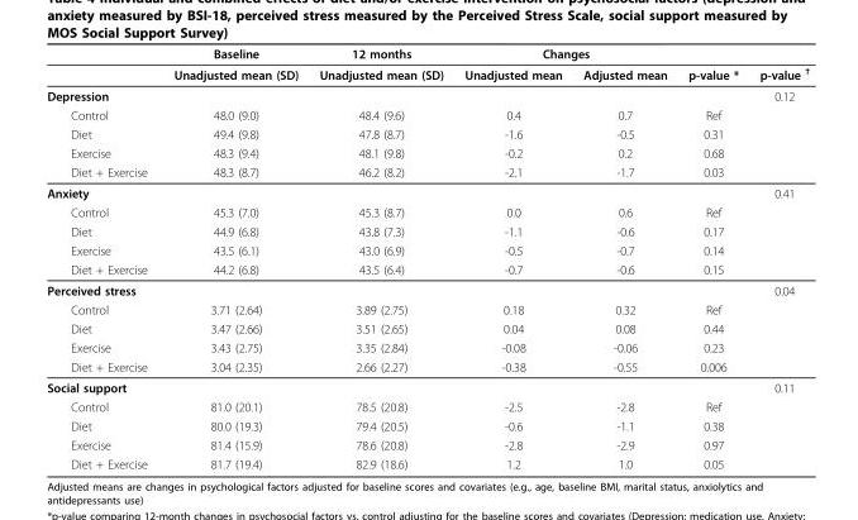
<table><thead><tr><td rowspan="2"></td><td rowspan="2">Baseline Unadjusted mean (SD)</td><td rowspan="2">12 months Unadjusted mean (SD)</td><td colspan="2">Changes</td><td rowspan="2">p-value *</td><td rowspan="2">p-value †</td></tr><tr><td>Unadjusted mean</td><td>Adjusted mean</td></tr></thead><tbody><tr><td>Depression</td><td></td><td></td><td></td><td></td><td></td><td>0.12</td></tr><tr><td>Control</td><td>48.0 (9.0)</td><td>48.4 (9.6)</td><td>0.4</td><td>0.7</td><td>Ref</td><td></td></tr><tr><td>Diet</td><td>49.4 (9.8)</td><td>47.8 (8.7)</td><td>-1.6</td><td>-0.5</td><td>0.31</td><td></td></tr><tr><td>Exercise</td><td>48.3 (9.4)</td><td>48.1 (9.8)</td><td>-0.2</td><td>0.2</td><td>0.68</td><td></td></tr><tr><td>Diet + Exercise</td><td>48.3 (8.7)</td><td>46.2 (8.2)</td><td>-2.1</td><td>-1.7</td><td>0.03</td><td></td></tr><tr><td>Anxiety</td><td></td><td></td><td></td><td></td><td></td><td>0.41</td></tr><tr><td>Control</td><td>45.3 (7.0)</td><td>45.3 (8.7)</td><td>0.0</td><td>0.6</td><td>Ref</td><td></td></tr><tr><td>Diet</td><td>44.9 (6.8)</td><td>43.8 (7.3)</td><td>-1.1</td><td>-0.6</td><td>0.17</td><td></td></tr><tr><td>Exercise</td><td>43.5 (6.1)</td><td>43.0 (6.9)</td><td>-0.5</td><td>-0.7</td><td>0.14</td><td></td></tr><tr><td>Diet + Exercise</td><td>44.2 (6.8)</td><td>43.5 (6.4)</td><td>-0.7</td><td>-0.6</td><td>0.15</td><td></td></tr><tr><td>Perceived stress</td><td></td><td></td><td></td><td></td><td></td><td>0.04</td></tr><tr><td>Control</td><td>3.71 (2.64)</td><td>3.89 (2.75)</td><td>0.18</td><td>0.32</td><td>Ref</td><td></td></tr><tr><td>Diet</td><td>3.47 (2.66)</td><td>3.51 (2.65)</td><td>0.04</td><td>0.08</td><td>0.44</td><td></td></tr><tr><td>Exercise</td><td>3.43 (2.75)</td><td>3.35 (2.84)</td><td>-0.08</td><td>-0.06</td><td>0.23</td><td></td></tr><tr><td>Diet + Exercise</td><td>3.04 (2.35)</td><td>2.66 (2.27)</td><td>-0.38</td><td>-0.55</td><td>0.006</td><td></td></tr><tr><td>Social support</td><td></td><td></td><td></td><td></td><td></td><td>0.11</td></tr><tr><td>Control</td><td>81.0 (20.1)</td><td>78.5 (20.8)</td><td>-2.5</td><td>-2.8</td><td>Ref</td><td></td></tr><tr><td>Diet</td><td>80.0 (19.3)</td><td>79.4 (20.5)</td><td>-0.6</td><td>-1.1</td><td>0.38</td><td></td></tr><tr><td>Exercise</td><td>81.4 (15.9)</td><td>78.6 (20.8)</td><td>-2.8</td><td>-2.9</td><td>0.97</td><td></td></tr><tr><td>Diet + Exercise</td><td>81.7 (19.4)</td><td>82.9 (18.6)</td><td>1.2</td><td>1.0</td><td>0.05</td><td></td></tr></tbody></table>